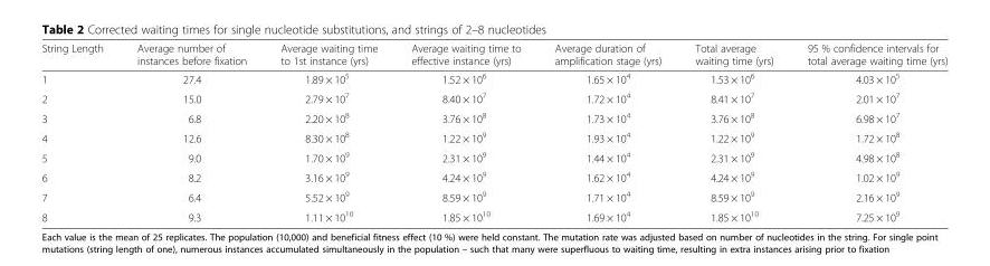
<table><thead><tr><td>String Length</td><td>Average number of instances before fixation</td><td>Average waiting time to 1st instance (yrs)</td><td>Average waiting time to effective instance (yrs)</td><td>Average duration of amplification stage (yrs)</td><td>Total average waiting time (yrs)</td><td>95 % confidence intervals for total average waiting time (yrs)</td></tr></thead><tbody><tr><td>1</td><td>27.4</td><td>1.89 × 10<sup>5</sup></td><td>1.52 × 10<sup>6</sup></td><td>1.65 × 10<sup>4</sup></td><td>1.53 × 10<sup>6</sup></td><td>4.03 × 10<sup>5</sup></td></tr><tr><td>2</td><td>15.0</td><td>2.79 × 10<sup>7</sup></td><td>8.40 × 10<sup>7</sup></td><td>1.72 × 10<sup>4</sup></td><td>8.41 × 10<sup>7</sup></td><td>2.01 × 10<sup>7</sup></td></tr><tr><td>3</td><td>6.8</td><td>2.20 × 10<sup>8</sup></td><td>3.76 × 10<sup>8</sup></td><td>1.73 × 10<sup>4</sup></td><td>3.76 × 10<sup>8</sup></td><td>6.98 × 10<sup>7</sup></td></tr><tr><td>4</td><td>12.6</td><td>8.30 × 10<sup>8</sup></td><td>1.22 × 10<sup>9</sup></td><td>1.93 × 10<sup>4</sup></td><td>1.22 × 10<sup>9</sup></td><td>1.72 × 10<sup>8</sup></td></tr><tr><td>5</td><td>9.0</td><td>1.70 × 10<sup>9</sup></td><td>2.31 × 10<sup>9</sup></td><td>1.44 × 10<sup>4</sup></td><td>2.31 × 10<sup>9</sup></td><td>4.98 × 10<sup>8</sup></td></tr><tr><td>6</td><td>8.2</td><td>3.16 × 10<sup>9</sup></td><td>4.24 × 10<sup>9</sup></td><td>1.62 × 10<sup>4</sup></td><td>4.24 × 10<sup>9</sup></td><td>1.02 × 10<sup>9</sup></td></tr><tr><td>7</td><td>6.4</td><td>5.52 × 10<sup>9</sup></td><td>8.59 × 10<sup>9</sup></td><td>1.71 × 10<sup>4</sup></td><td>8.59 × 10<sup>9</sup></td><td>2.16 × 10<sup>9</sup></td></tr><tr><td>8</td><td>9.3</td><td>1.11 × 10<sup>10</sup></td><td>1.85 × 10<sup>10</sup></td><td>1.69 × 10<sup>4</sup></td><td>1.85 × 10<sup>10</sup></td><td>7.25 × 10<sup>9</sup></td></tr></tbody></table>